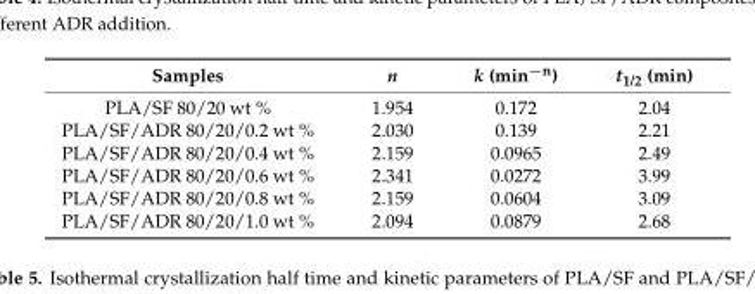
<table><thead><tr><td>Samples</td><td>n</td><td>k (min<sup>−n</sup>)</td><td>t<sub>1/2</sub> (min)</td></tr></thead><tbody><tr><td>PLA/SF 80/20 wt %</td><td>1.954</td><td>0.172</td><td>2.04</td></tr><tr><td>PLA/SF/ADR 80/20/0.2 wt %</td><td>2.030</td><td>0.139</td><td>2.21</td></tr><tr><td>PLA/SF/ADR 80/20/0.4 wt %</td><td>2.159</td><td>0.0965</td><td>2.49</td></tr><tr><td>PLA/SF/ADR 80/20/0.6 wt %</td><td>2.341</td><td>0.0272</td><td>3.99</td></tr><tr><td>PLA/SF/ADR 80/20/0.8 wt %</td><td>2.159</td><td>0.0604</td><td>3.09</td></tr><tr><td>PLA/SF/ADR 80/20/1.0 wt %</td><td>2.094</td><td>0.0879</td><td>2.68</td></tr></tbody></table>